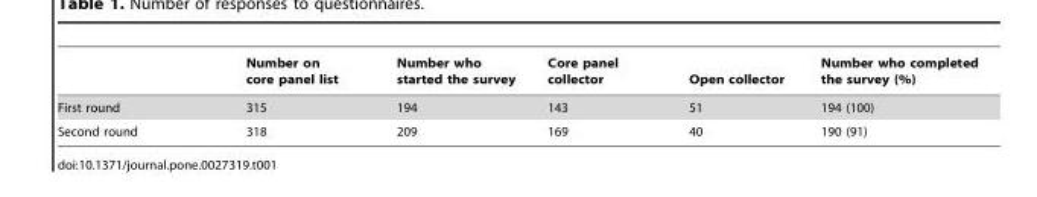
<table><thead><tr><td></td><td>Number on core panel list</td><td>Number who started the survey</td><td>Core panel collector</td><td>Open collector</td><td>Number who completed the survey (%)</td></tr></thead><tbody><tr><td>First round</td><td>315</td><td>194</td><td>143</td><td>51</td><td>194 (100)</td></tr><tr><td>Second round</td><td>318</td><td>209</td><td>169</td><td>40</td><td>190 (91)</td></tr></tbody></table>